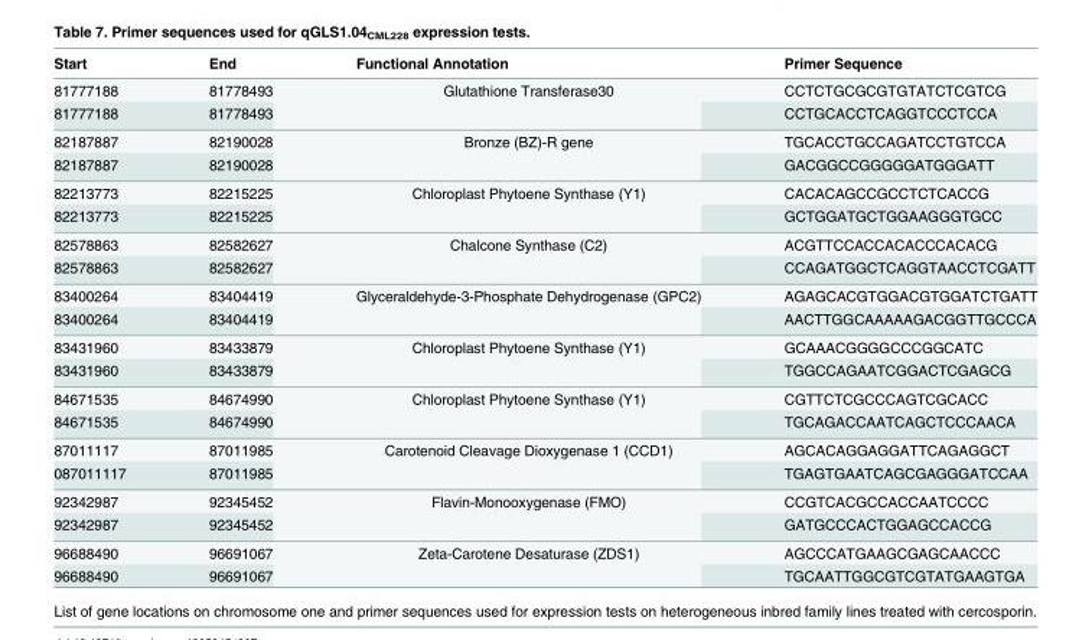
<table><thead><tr><td>Start</td><td>End</td><td>Functional Annotation</td><td>Primer Sequence</td></tr></thead><tbody><tr><td>81777188</td><td>81778493</td><td rowspan="2">Glutathione Transferase30</td><td>CCTCTGCGCGTGTATCTCGTCG</td></tr><tr><td>81777188</td><td>81778493</td><td>CCTGCACCTCAGGTCCCTCCA</td></tr><tr><td>82187887</td><td>82190028</td><td rowspan="2">Bronze (BZ)-R gene</td><td>TGCACCTGCCAGATCCTGTCCA</td></tr><tr><td>82187887</td><td>82190028</td><td>GACGGCCGGGGGATGGGATT</td></tr><tr><td>82213773</td><td>82215225</td><td rowspan="2">Chloroplast Phytoene Synthase (Y1)</td><td>CACACAGCCGCCTCTCACCG</td></tr><tr><td>82213773</td><td>82215225</td><td>GCTGGATGCTGGAAGGGTGCC</td></tr><tr><td>82578863</td><td>82582627</td><td rowspan="2">Chalcone Synthase (C2)</td><td>ACGTTCCACCACACCCACACG</td></tr><tr><td>82578863</td><td>82582627</td><td>CCAGATGGCTCAGGTAACCTCGATT</td></tr><tr><td>83400264</td><td>83404419</td><td rowspan="2">Glyceraldehyde-3-Phosphate Dehydrogenase (GPC2)</td><td>AGAGCACGTGGACGTGGATCTGATT</td></tr><tr><td>83400264</td><td>83404419</td><td>AACTTGGCAAAAAGACGGTTGCCCA</td></tr><tr><td>83431960</td><td>83433879</td><td rowspan="2">Chloroplast Phytoene Synthase (Y1)</td><td>GCAAACGGGGCCCGGCATC</td></tr><tr><td>83431960</td><td>83433879</td><td>TGGCCAGAATCGGACTCGAGCG</td></tr><tr><td>84671535</td><td>84674990</td><td rowspan="2">Chloroplast Phytoene Synthase (Y1)</td><td>CGTTCTCGCCCAGTCGCACC</td></tr><tr><td>84671535</td><td>84674990</td><td>TGCAGACCAATCAGCTCCCAACA</td></tr><tr><td>87011117</td><td>87011985</td><td rowspan="2">Carotenoid Cleavage Dioxygenase 1 (CCD1)</td><td>AGCACAGGAGGATTCAGAGGCT</td></tr><tr><td>087011117</td><td>87011985</td><td>TGAGTGAATCAGCGAGGGATCCAA</td></tr><tr><td>92342987</td><td>92345452</td><td rowspan="2">Flavin-Monooxygenase (FMO)</td><td>CCGTCACGCCACCAATCCCC</td></tr><tr><td>92342987</td><td>92345452</td><td>GATGCCCACTGGAGCCACCG</td></tr><tr><td>96688490</td><td>96691067</td><td rowspan="2">Zeta-Carotene Desaturase (ZDS1)</td><td>AGCCCATGAAGCGAGCAACCC</td></tr><tr><td>96688490</td><td>96691067</td><td>TGCAATTGGCGTCGTATGAAGTGA</td></tr></tbody></table>